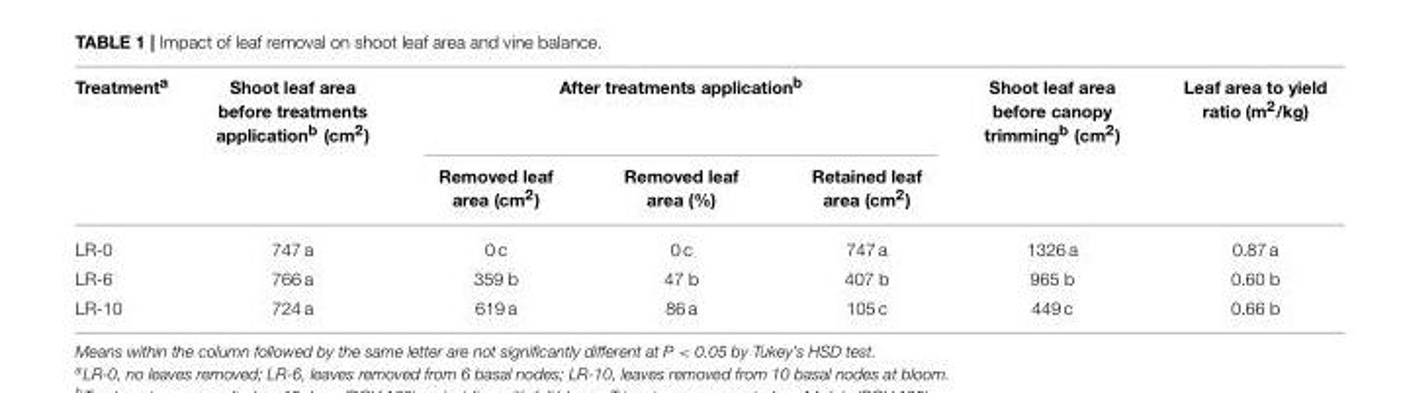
<table><thead><tr><td rowspan="2">Treatment<sup>a</sup></td><td rowspan="2">Shoot leaf area before treatments application<sup>b</sup> (cm<sup>2</sup>)</td><td colspan="3">After treatments application<sup>b</sup></td><td rowspan="2">Shoot leaf area before canopy trimming<sup>b</sup> (cm<sup>2</sup>)</td><td rowspan="2">Leaf area to yield ratio (m<sup>2</sup>/kg)</td></tr><tr><td>Removed leaf area (cm<sup>2</sup>)</td><td>Removed leaf area (%)</td><td>Retained leaf area (cm<sup>2</sup>)</td></tr></thead><tbody><tr><td>LR-0</td><td>747 a</td><td>0 c</td><td>0 c</td><td>747 a</td><td>1326 a</td><td>0.87 a</td></tr><tr><td>LR-6</td><td>766 a</td><td>359 b</td><td>47 b</td><td>407 b</td><td>965 b</td><td>0.60 b</td></tr><tr><td>LR-10</td><td>724 a</td><td>619 a</td><td>86 a</td><td>105 c</td><td>449 c</td><td>0.66 b</td></tr></tbody></table>